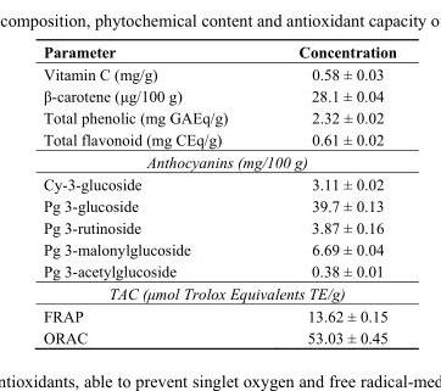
<table><thead><tr><td>Parameter</td><td>Concentration</td></tr></thead><tbody><tr><td>Vitamin C (mg/g)</td><td>0.58 ± 0.03</td></tr><tr><td>β-carotene (μg/100 g)</td><td>28.1 ± 0.04</td></tr><tr><td>Total phenolic (mg GAEq/g)</td><td>2.32 ± 0.02</td></tr><tr><td>Total flavonoid (mg CEq/g)</td><td>0.61 ± 0.02</td></tr><tr><td colspan="2">Anthocyanins (mg/100 g)</td></tr><tr><td>Cy-3-glucoside</td><td>3.11 ± 0.02</td></tr><tr><td>Pg 3-glucoside</td><td>39.7 ± 0.13</td></tr><tr><td>Pg 3-rutinoside</td><td>3.87 ± 0.16</td></tr><tr><td>Pg 3-malonylglucoside</td><td>6.69 ± 0.04</td></tr><tr><td>Pg 3-acetylglucoside</td><td>0.38 ± 0.01</td></tr><tr><td colspan="2">TAC (μmol Trolox Equivalents TE/g)</td></tr><tr><td>FRAP</td><td>13.62 ± 0.15</td></tr><tr><td>ORAC</td><td>53.03 ± 0.45</td></tr></tbody></table>